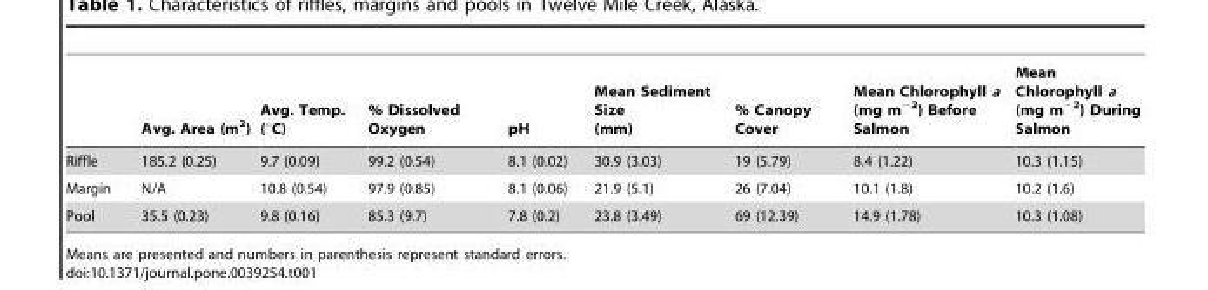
<table><thead><tr><td></td><td>Avg. Area (m<sup>2</sup>)</td><td>Avg. Temp. (°C)</td><td>% Dissolved Oxygen</td><td>pH</td><td>Mean Sediment Size (mm)</td><td>% Canopy Cover</td><td>Mean Chlorophyll a (mg m<sup>−2</sup>) Before Salmon</td><td>Mean Chlorophyll a (mg m<sup>−2</sup>) During Salmon</td></tr></thead><tbody><tr><td>Riffle</td><td>185.2 (0.25)</td><td>9.7 (0.09)</td><td>99.2 (0.54)</td><td>8.1 (0.02)</td><td>30.9 (3.03)</td><td>19 (5.79)</td><td>8.4 (1.22)</td><td>10.3 (1.15)</td></tr><tr><td>Margin</td><td>N/A</td><td>10.8 (0.54)</td><td>97.9 (0.85)</td><td>8.1 (0.06)</td><td>21.9 (5.1)</td><td>26 (7.04)</td><td>10.1 (1.8)</td><td>10.2 (1.6)</td></tr><tr><td>Pool</td><td>35.5 (0.23)</td><td>9.8 (0.16)</td><td>85.3 (9.7)</td><td>7.8 (0.2)</td><td>23.8 (3.49)</td><td>69 (12.39)</td><td>14.9 (1.78)</td><td>10.3 (1.08)</td></tr></tbody></table>